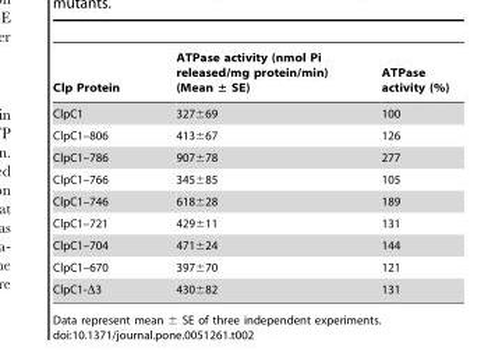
<table><thead><tr><td>Clp Protein</td><td>ATPase activity (nmol Pi released/mg protein/min) (Mean ± SE)</td><td>ATPase activity (%)</td></tr></thead><tbody><tr><td>ClpC1</td><td>327±69</td><td>100</td></tr><tr><td>ClpC1–806</td><td>413±67</td><td>126</td></tr><tr><td>ClpC1–786</td><td>907±78</td><td>277</td></tr><tr><td>ClpC1–766</td><td>345±85</td><td>105</td></tr><tr><td>ClpC1–746</td><td>618±28</td><td>189</td></tr><tr><td>ClpC1–721</td><td>429±11</td><td>131</td></tr><tr><td>ClpC1–704</td><td>471±24</td><td>144</td></tr><tr><td>ClpC1–670</td><td>397±70</td><td>121</td></tr><tr><td>ClpC1-Δ3</td><td>430±82</td><td>131</td></tr></tbody></table>